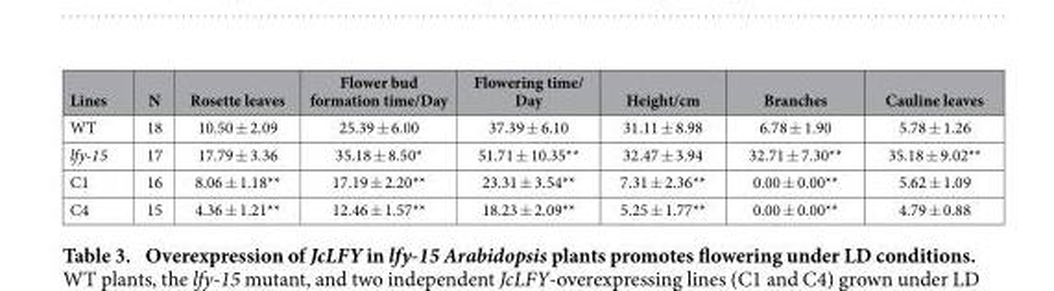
<table><thead><tr><td>Lines</td><td>N</td><td>Rosette leaves</td><td>Flower bud formation time/Day</td><td>Flowering time/ Day</td><td>Height/cm</td><td>Branches</td><td>Cauline leaves</td></tr></thead><tbody><tr><td>WT</td><td>18</td><td>10.50 ± 2.09</td><td>25.39 ± 6.00</td><td>37.39 ± 6.10</td><td>31.11 ± 8.98</td><td>6.78 ± 1.90</td><td>5.78 ± 1.26</td></tr><tr><td>lfy-15</td><td>17</td><td>17.79 ± 3.36</td><td>35.18 ± 8.50*</td><td>51.71 ± 10.35**</td><td>32.47 ± 3.94</td><td>32.71 ± 7.30**</td><td>35.18 ± 9.02**</td></tr><tr><td>C1</td><td>16</td><td>8.06 ± 1.18**</td><td>17.19 ± 2.20**</td><td>23.31 ± 3.54**</td><td>7.31 ± 2.36**</td><td>0.00 ± 0.00**</td><td>5.62 ± 1.09</td></tr><tr><td>C4</td><td>15</td><td>4.36 ± 1.21**</td><td>12.46 ± 1.57**</td><td>18.23 ± 2.09**</td><td>5.25 ± 1.77**</td><td>0.00 ± 0.00**</td><td>4.79 ± 0.88</td></tr></tbody></table>